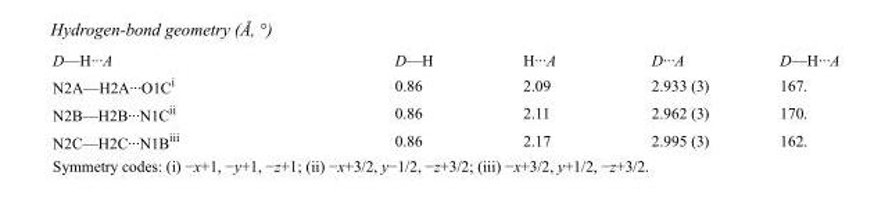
<table><tbody><tr><td>D—H···A</td><td>D—H</td><td>H···A</td><td>D···A</td><td>D—H···A</td></tr><tr><td>N2A—H2A···O1C<sup>i</sup></td><td>0.86</td><td>2.09</td><td>2.933 (3)</td><td>167.</td></tr><tr><td>N2B—H2B···N1C<sup>ii</sup></td><td>0.86</td><td>2.11</td><td>2.962 (3)</td><td>170.</td></tr><tr><td>N2C—H2C···N1B<sup>iii</sup></td><td>0.86</td><td>2.17</td><td>2.995 (3)</td><td>162.</td></tr></tbody></table>